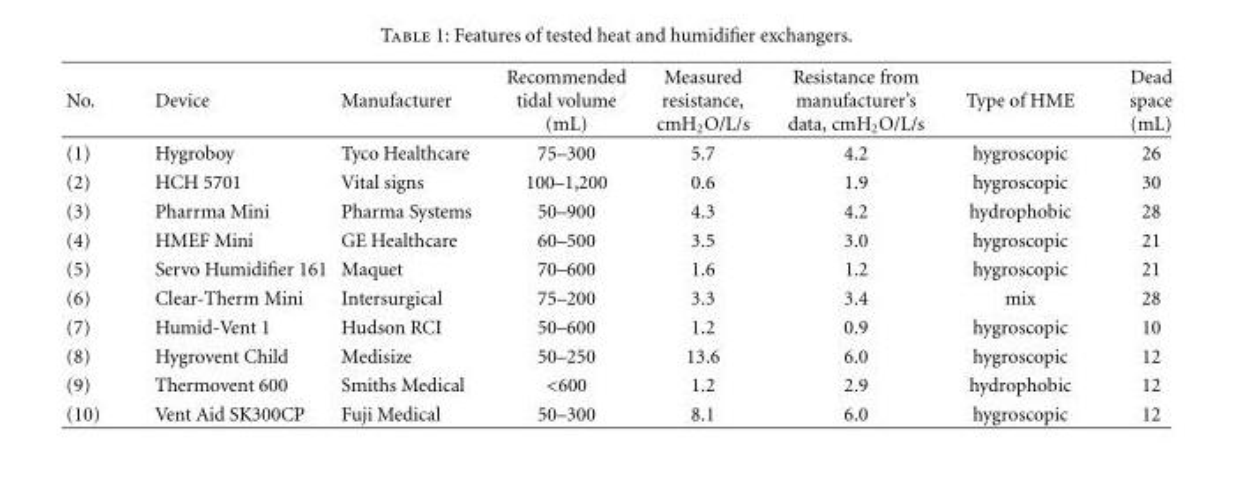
<table><thead><tr><td>No.</td><td>Device</td><td>Manufacturer</td><td>Recommended tidal volume (mL)</td><td>Measured resistance, cmH<sub>2</sub>O/L/s</td><td>Resistance from manufacturer’s data, cmH<sub>2</sub>O/L/s</td><td>Type of HME</td><td>Dead space (mL)</td></tr></thead><tbody><tr><td>(1)</td><td>Hygroboy</td><td>Tyco Healthcare</td><td>75–300</td><td>5.7</td><td>4.2</td><td>hygroscopic</td><td>26</td></tr><tr><td>(2)</td><td>HCH 5701</td><td>Vital signs</td><td>100–1,200</td><td>0.6</td><td>1.9</td><td>hygroscopic</td><td>30</td></tr><tr><td>(3)</td><td>Pharrma Mini</td><td>Pharma Systems</td><td>50–900</td><td>4.3</td><td>4.2</td><td>hydrophobic</td><td>28</td></tr><tr><td>(4)</td><td>HMEF Mini</td><td>GE Healthcare</td><td>60–500</td><td>3.5</td><td>3.0</td><td>hygroscopic</td><td>21</td></tr><tr><td>(5)</td><td>Servo Humidifier 161</td><td>Maquet</td><td>70–600</td><td>1.6</td><td>1.2</td><td>hygroscopic</td><td>21</td></tr><tr><td>(6)</td><td>Clear-Therm Mini</td><td>Intersurgical</td><td>75–200</td><td>3.3</td><td>3.4</td><td>mix</td><td>28</td></tr><tr><td>(7)</td><td>Humid-Vent 1</td><td>Hudson RCI</td><td>50–600</td><td>1.2</td><td>0.9</td><td>hygroscopic</td><td>10</td></tr><tr><td>(8)</td><td>Hygrovent Child</td><td>Medisize</td><td>50–250</td><td>13.6</td><td>6.0</td><td>hygroscopic</td><td>12</td></tr><tr><td>(9)</td><td>Thermovent 600</td><td>Smiths Medical</td><td>&lt;600</td><td>1.2</td><td>2.9</td><td>hydrophobic</td><td>12</td></tr><tr><td>(10)</td><td>Vent Aid SK300CP</td><td>Fuji Medical</td><td>50–300</td><td>8.1</td><td>6.0</td><td>hygroscopic</td><td>12</td></tr></tbody></table>